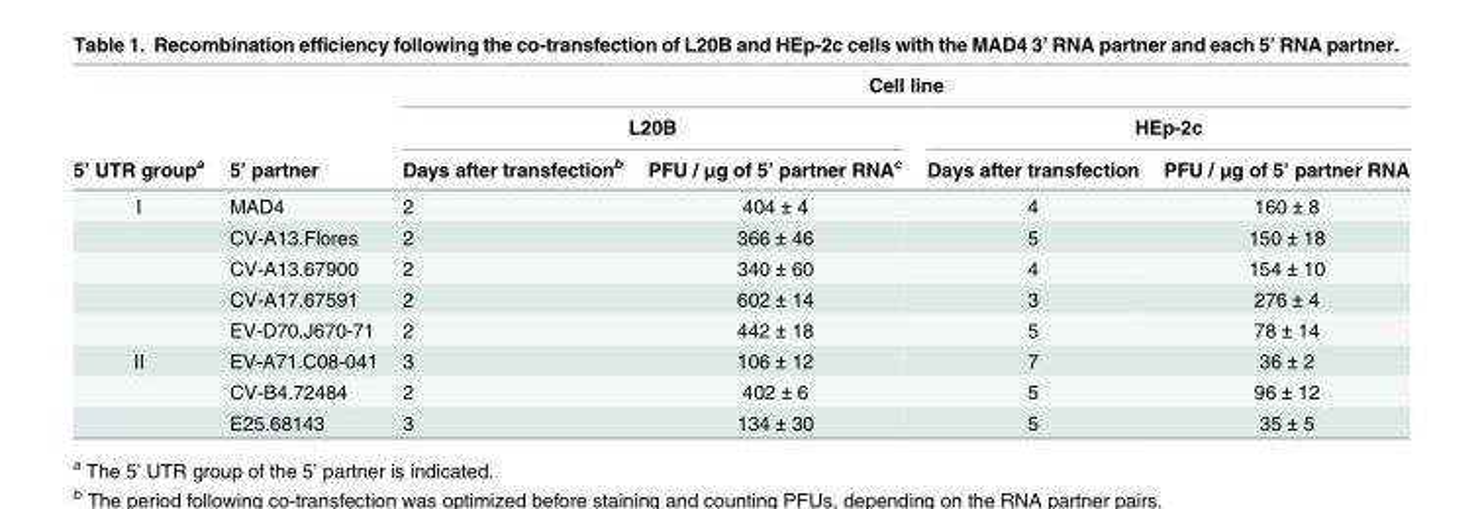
<table><thead><tr><td rowspan="3">5’ UTR group<sup>a</sup></td><td rowspan="3">5’ partner</td><td colspan="4">Cell line</td></tr><tr><td colspan="2">L20B</td><td colspan="2">HEp-2c</td></tr><tr><td>Days after transfection<sup>b</sup></td><td>PFU / μg of 5’ partner RNA<sup>c</sup></td><td>Days after transfection</td><td>PFU / μg of 5’ partner RNA</td></tr></thead><tbody><tr><td rowspan="5">I</td><td>MAD4</td><td>2</td><td>404 ± 4</td><td>4</td><td>160 ± 8</td></tr><tr><td>CV-A13.Flores</td><td>2</td><td>366 ± 46</td><td>5</td><td>150 ± 18</td></tr><tr><td>CV-A13.67900</td><td>2</td><td>340 ± 60</td><td>4</td><td>154 ± 10</td></tr><tr><td>CV-A17.67591</td><td>2</td><td>602 ± 14</td><td>3</td><td>276 ± 4</td></tr><tr><td>EV-D70.J670-71</td><td>2</td><td>442 ± 18</td><td>5</td><td>78 ± 14</td></tr><tr><td rowspan="3">II</td><td>EV-A71.C08-041</td><td>3</td><td>106 ± 12</td><td>7</td><td>36 ± 2</td></tr><tr><td>CV-B4.72484</td><td>2</td><td>402 ± 6</td><td>5</td><td>96 ± 12</td></tr><tr><td>E25.68143</td><td>3</td><td>134 ± 30</td><td>5</td><td>35 ± 5</td></tr></tbody></table>